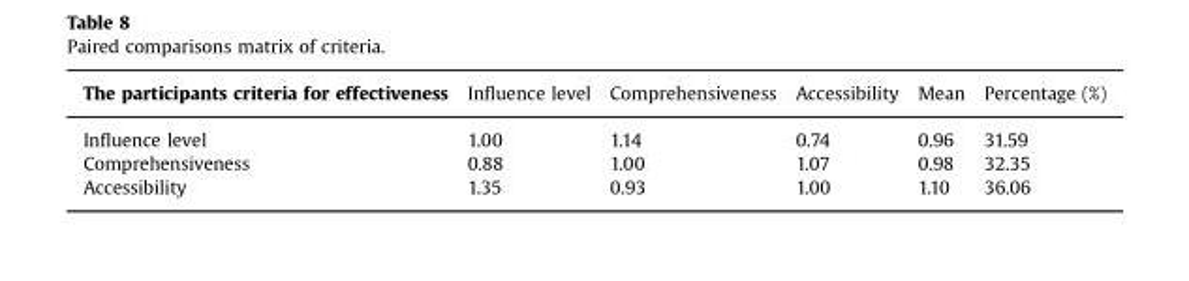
<table><thead><tr><td>The participants criteria for effectiveness</td><td>Influence level</td><td>Comprehensiveness</td><td>Accessibility</td><td>Mean</td><td>Percentage (%)</td></tr></thead><tbody><tr><td>Influence level</td><td>1.00</td><td>1.14</td><td>0.74</td><td>0.96</td><td>31.59</td></tr><tr><td>Comprehensiveness</td><td>0.88</td><td>1.00</td><td>1.07</td><td>0.98</td><td>32.35</td></tr><tr><td>Accessibility</td><td>1.35</td><td>0.93</td><td>1.00</td><td>1.10</td><td>36.06</td></tr></tbody></table>